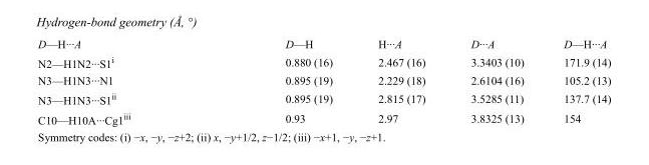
<table><tbody><tr><td>D—H···A</td><td>D—H</td><td>H···A</td><td>D···A</td><td>D—H···A</td></tr><tr><td>N2—H1N2···S1<sup>i</sup></td><td>0.880 (16)</td><td>2.467 (16)</td><td>3.3403 (10)</td><td>171.9 (14)</td></tr><tr><td>N3—H1N3···N1</td><td>0.895 (19)</td><td>2.229 (18)</td><td>2.6104 (16)</td><td>105.2 (13)</td></tr><tr><td>N3—H1N3···S1<sup>ii</sup></td><td>0.895 (19)</td><td>2.815 (17)</td><td>3.5285 (11)</td><td>137.7 (14)</td></tr><tr><td>C10—H10A···Cg1<sup>iii</sup></td><td>0.93</td><td>2.97</td><td>3.8325 (13)</td><td>154</td></tr></tbody></table>